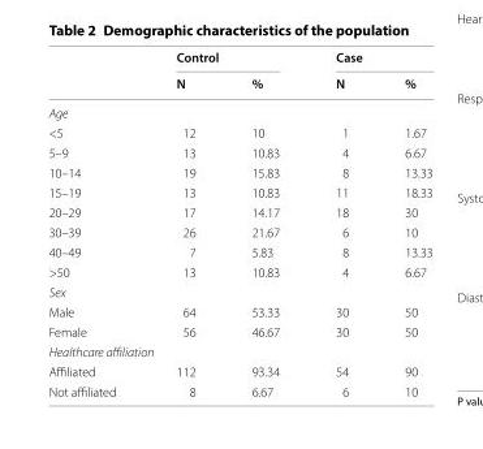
<table><thead><tr><td rowspan="2"></td><td colspan="2">Control</td><td colspan="2">Case</td></tr><tr><td>N</td><td>%</td><td>N</td><td>%</td></tr></thead><tbody><tr><td colspan="5">Age</td></tr><tr><td>&lt;5</td><td>12</td><td>10</td><td>1</td><td>1.67</td></tr><tr><td>5–9</td><td>13</td><td>10.83</td><td>4</td><td>6.67</td></tr><tr><td>10–14</td><td>19</td><td>15.83</td><td>8</td><td>13.33</td></tr><tr><td>15–19</td><td>13</td><td>10.83</td><td>11</td><td>18.33</td></tr><tr><td>20–29</td><td>17</td><td>14.17</td><td>18</td><td>30</td></tr><tr><td>30–39</td><td>26</td><td>21.67</td><td>6</td><td>10</td></tr><tr><td>40–49</td><td>7</td><td>5.83</td><td>8</td><td>13.33</td></tr><tr><td>&gt;50</td><td>13</td><td>10.83</td><td>4</td><td>6.67</td></tr><tr><td colspan="5">Sex</td></tr><tr><td>Male</td><td>64</td><td>53.33</td><td>30</td><td>50</td></tr><tr><td>Female</td><td>56</td><td>46.67</td><td>30</td><td>50</td></tr><tr><td colspan="5">Healthcare affiliation</td></tr><tr><td>Affiliated</td><td>112</td><td>93.34</td><td>54</td><td>90</td></tr><tr><td>Not affiliated</td><td>8</td><td>6.67</td><td>6</td><td>10</td></tr></tbody></table>